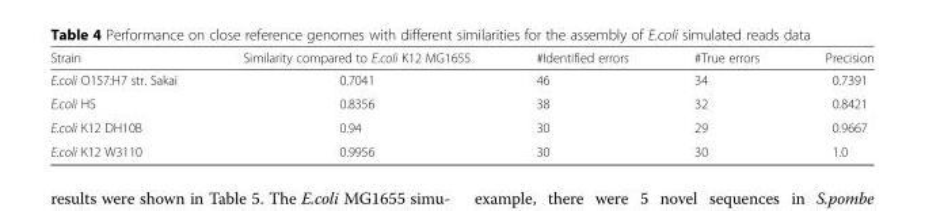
<table><thead><tr><td>Strain</td><td>Similarity compared to E.coli K12 MG1655</td><td>#Identified errors</td><td>#True errors</td><td>Precision</td></tr></thead><tbody><tr><td>E.coli O157:H7 str. Sakai</td><td>0.7041</td><td>46</td><td>34</td><td>0.7391</td></tr><tr><td>E.coli HS</td><td>0.8356</td><td>38</td><td>32</td><td>0.8421</td></tr><tr><td>E.coli K12 DH10B</td><td>0.94</td><td>30</td><td>29</td><td>0.9667</td></tr><tr><td>E.coli K12 W3110</td><td>0.9956</td><td>30</td><td>30</td><td>1.0</td></tr></tbody></table>